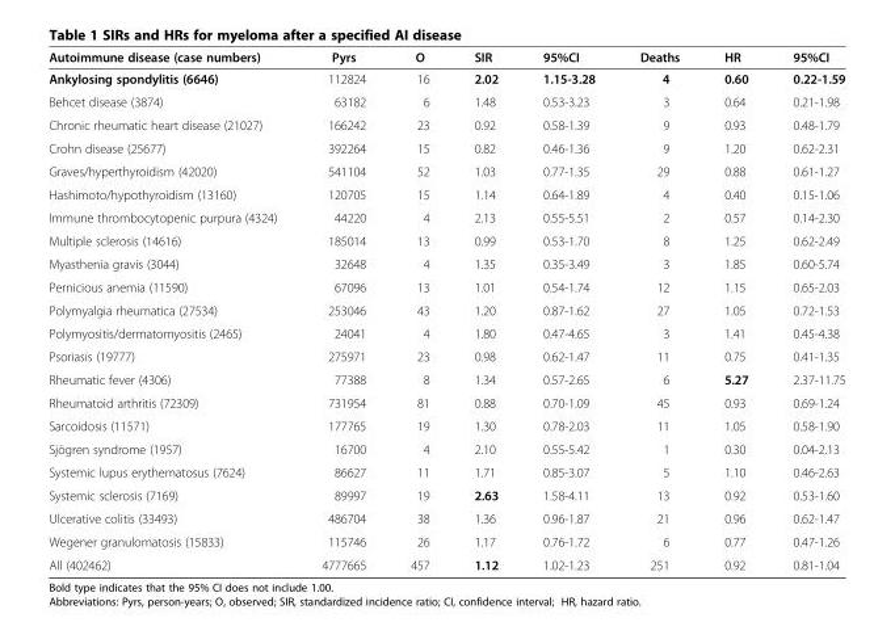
<table><thead><tr><td>Autoimmune disease (case numbers)</td><td>Pyrs</td><td>O</td><td>SIR</td><td>95%CI</td><td>Deaths</td><td>HR</td><td>95%CI</td></tr></thead><tbody><tr><td>Ankylosing spondylitis (6646)</td><td>112824</td><td>16</td><td>2.02</td><td>1.15-3.28</td><td>4</td><td>0.60</td><td>0.22-1.59</td></tr><tr><td>Behcet disease (3874)</td><td>63182</td><td>6</td><td>1.48</td><td>0.53-3.23</td><td>3</td><td>0.64</td><td>0.21-1.98</td></tr><tr><td>Chronic rheumatic heart disease (21027)</td><td>166242</td><td>23</td><td>0.92</td><td>0.58-1.39</td><td>9</td><td>0.93</td><td>0.48-1.79</td></tr><tr><td>Crohn disease (25677)</td><td>392264</td><td>15</td><td>0.82</td><td>0.46-1.36</td><td>9</td><td>1.20</td><td>0.62-2.31</td></tr><tr><td>Graves/hyperthyroidism (42020)</td><td>541104</td><td>52</td><td>1.03</td><td>0.77-1.35</td><td>29</td><td>0.88</td><td>0.61-1.27</td></tr><tr><td>Hashimoto/hypothyroidism (13160)</td><td>120705</td><td>15</td><td>1.14</td><td>0.64-1.89</td><td>4</td><td>0.40</td><td>0.15-1.06</td></tr><tr><td>Immune thrombocytopenic purpura (4324)</td><td>44220</td><td>4</td><td>2.13</td><td>0.55-5.51</td><td>2</td><td>0.57</td><td>0.14-2.30</td></tr><tr><td>Multiple sclerosis (14616)</td><td>185014</td><td>13</td><td>0.99</td><td>0.53-1.70</td><td>8</td><td>1.25</td><td>0.62-2.49</td></tr><tr><td>Myasthenia gravis (3044)</td><td>32648</td><td>4</td><td>1.35</td><td>0.35-3.49</td><td>3</td><td>1.85</td><td>0.60-5.74</td></tr><tr><td>Pernicious anemia (11590)</td><td>67096</td><td>13</td><td>1.01</td><td>0.54-1.74</td><td>12</td><td>1.15</td><td>0.65-2.03</td></tr><tr><td>Polymyalgia rheumatica (27534)</td><td>253046</td><td>43</td><td>1.20</td><td>0.87-1.62</td><td>27</td><td>1.05</td><td>0.72-1.53</td></tr><tr><td>Polymyositis/dermatomyositis (2465)</td><td>24041</td><td>4</td><td>1.80</td><td>0.47-4.65</td><td>3</td><td>1.41</td><td>0.45-4.38</td></tr><tr><td>Psoriasis (19777)</td><td>275971</td><td>23</td><td>0.98</td><td>0.62-1.47</td><td>11</td><td>0.75</td><td>0.41-1.35</td></tr><tr><td>Rheumatic fever (4306)</td><td>77388</td><td>8</td><td>1.34</td><td>0.57-2.65</td><td>6</td><td>5.27</td><td>2.37-11.75</td></tr><tr><td>Rheumatoid arthritis (72309)</td><td>731954</td><td>81</td><td>0.88</td><td>0.70-1.09</td><td>45</td><td>0.93</td><td>0.69-1.24</td></tr><tr><td>Sarcoidosis (11571)</td><td>177765</td><td>19</td><td>1.30</td><td>0.78-2.03</td><td>11</td><td>1.05</td><td>0.58-1.90</td></tr><tr><td>Sjögren syndrome (1957)</td><td>16700</td><td>4</td><td>2.10</td><td>0.55-5.42</td><td>1</td><td>0.30</td><td>0.04-2.13</td></tr><tr><td>Systemic lupus erythematosus (7624)</td><td>86627</td><td>11</td><td>1.71</td><td>0.85-3.07</td><td>5</td><td>1.10</td><td>0.46-2.63</td></tr><tr><td>Systemic sclerosis (7169)</td><td>89997</td><td>19</td><td>2.63</td><td>1.58-4.11</td><td>13</td><td>0.92</td><td>0.53-1.60</td></tr><tr><td>Ulcerative colitis (33493)</td><td>486704</td><td>38</td><td>1.36</td><td>0.96-1.87</td><td>21</td><td>0.96</td><td>0.62-1.47</td></tr><tr><td>Wegener granulomatosis (15833)</td><td>115746</td><td>26</td><td>1.17</td><td>0.76-1.72</td><td>6</td><td>0.77</td><td>0.47-1.26</td></tr><tr><td>All (402462)</td><td>4777665</td><td>457</td><td>1.12</td><td>1.02-1.23</td><td>251</td><td>0.92</td><td>0.81-1.04</td></tr></tbody></table>